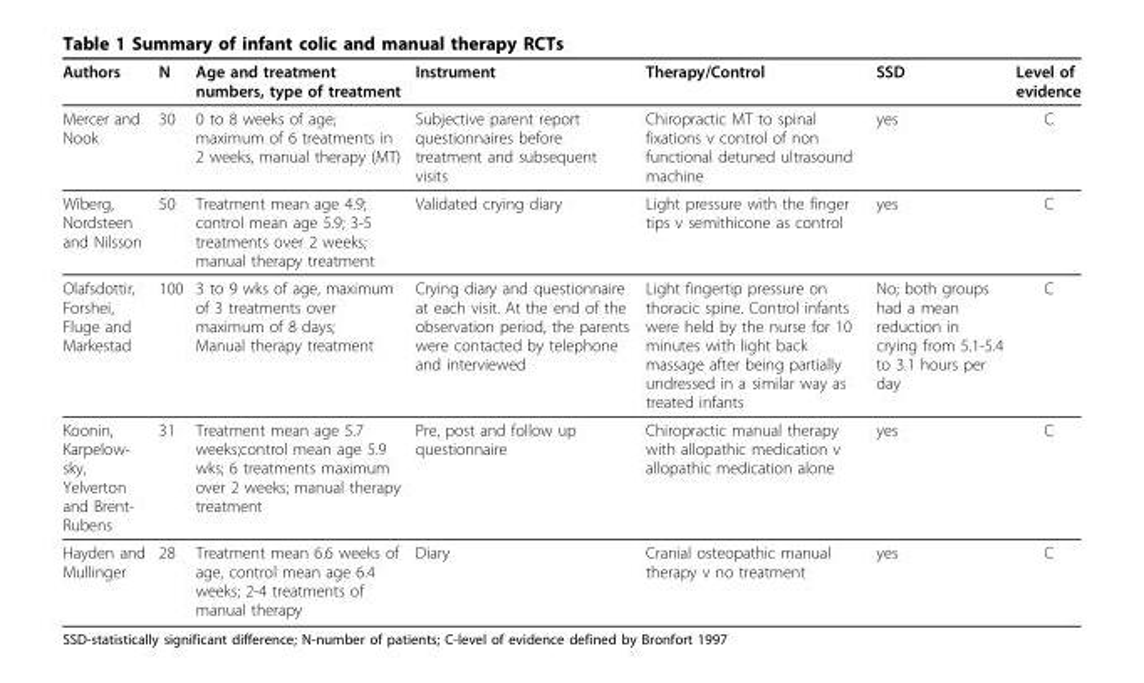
<table><thead><tr><td>Authors</td><td>N</td><td>Age and treatment numbers, type of treatment</td><td>Instrument</td><td>Therapy/Control</td><td>SSD</td><td>Level of evidence</td></tr></thead><tbody><tr><td>Mercer and Nook</td><td>30</td><td>0 to 8 weeks of age; maximum of 6 treatments in 2 weeks, manual therapy (MT)</td><td>Subjective parent report questionnaires before treatment and subsequent visits</td><td>Chiropractic MT to spinal fixations v control of non functional detuned ultrasound machine</td><td>yes</td><td>C</td></tr><tr><td>Wiberg, Nordsteen and Nilsson</td><td>50</td><td>Treatment mean age 4.9; control mean age 5.9; 3-5 treatments over 2 weeks; manual therapy treatment</td><td>Validated crying diary</td><td>Light pressure with the finger tips v semithicone as control</td><td>yes</td><td>C</td></tr><tr><td>Olafsdottir, Forshei, Fluge and Markestad</td><td>100</td><td>3 to 9 wks of age, maximum of 3 treatments over maximum of 8 days; Manual therapy treatment</td><td>Crying diary and questionnaire at each visit. At the end of the observation period, the parents were contacted by telephone and interviewed</td><td>Light fingertip pressure on thoracic spine. Control infants were held by the nurse for 10 minutes with light back massage after being partially undressed in a similar way as treated infants</td><td>No; both groups had a mean reduction in crying from 5.1-5.4 to 3.1 hours per day</td><td>C</td></tr><tr><td>Koonin, Karpelow- sky, Yelverton and Brent- Rubens</td><td>31</td><td>Treatment mean age 5.7 weeks;control mean age 5.9 wks; 6 treatments maximum over 2 weeks; manual therapy treatment</td><td>Pre, post and follow up questionnaire</td><td>Chiropractic manual therapy with allopathic medication v allopathic medication alone</td><td>yes</td><td>C</td></tr><tr><td>Hayden and Mullinger</td><td>28</td><td>Treatment mean 6.6 weeks of age, control mean age 6.4 weeks; 2-4 treatments of manual therapy</td><td>Diary</td><td>Cranial osteopathic manual therapy v no treatment</td><td>yes</td><td>C</td></tr></tbody></table>